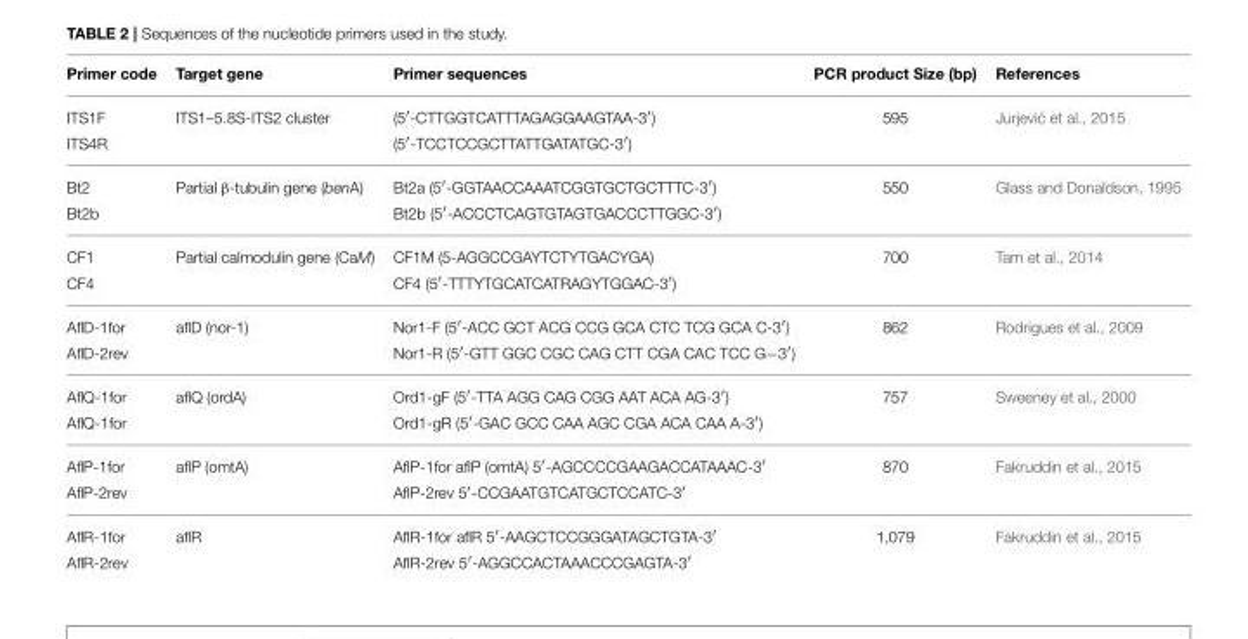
<table><thead><tr><td>Primer code</td><td>Target gene</td><td>Primer sequences</td><td>PCR product Size (bp)</td><td>References</td></tr></thead><tbody><tr><td>ITS1F</td><td>ITS1–5.8S-ITS2 cluster</td><td>(5′-CTTGGTCATTTAGAGGAAGTAA-3′)</td><td>595</td><td>Jurjevi ´c et al., 2015</td></tr><tr><td>ITS4R</td><td></td><td>(5′-TCCTCCGCTTATTGATATGC-3′)</td><td></td><td></td></tr><tr><td>Bt2</td><td>Partial β-tubulin gene (benA)</td><td>Bt2a (5′-GGTAACCAAATCGGTGCTGCTTTC-3′)</td><td>550</td><td>Glass and Donaldson, 1995</td></tr><tr><td>Bt2b</td><td></td><td>Bt2b (5′-ACCCTCAGTGTAGTGACCCTTGGC-3′)</td><td></td><td></td></tr><tr><td>CF1</td><td>Partial calmodulin gene (CaM)</td><td>CF1M (5-AGGCCGAYTCTYTGACYGA)</td><td>700</td><td>Tam et al., 2014</td></tr><tr><td>CF4</td><td></td><td>CF4 (5′-TTTYTGCATCATRAGYTGGAC-3′)</td><td></td><td></td></tr><tr><td>AflD-1for</td><td>aflD (nor-1)</td><td>Nor1-F (5′-ACC GCT ACG CCG GCA CTC TCG GCA C-3′)</td><td>862</td><td>Rodrigues et al., 2009</td></tr><tr><td>AflD-2rev</td><td></td><td>Nor1-R (5′-GTT GGC CGC CAG CTT CGA CAC TCC G−3′)</td><td></td><td></td></tr><tr><td>AflQ-1for</td><td>aflQ (ordA)</td><td>Ord1-gF (5′-TTA AGG CAG CGG AAT ACA AG-3′)</td><td>757</td><td>Sweeney et al., 2000</td></tr><tr><td>AflQ-1for</td><td></td><td>Ord1-gR (5′-GAC GCC CAA AGC CGA ACA CAA A-3′)</td><td></td><td></td></tr><tr><td>AflP-1for</td><td>aflP (omtA)</td><td>AflP-1for aflP (omtA) 5′-AGCCCCGAAGACCATAAAC-3′</td><td>870</td><td>Fakruddin et al., 2015</td></tr><tr><td>AflP-2rev</td><td></td><td>AflP-2rev 5′-CCGAATGTCATGCTCCATC-3′</td><td></td><td></td></tr><tr><td>AflR-1for</td><td>aflR</td><td>AflR-1for aflR 5′-AAGCTCCGGGATAGCTGTA-3′</td><td>1,079</td><td>Fakruddin et al., 2015</td></tr><tr><td>AflR-2rev</td><td></td><td>AflR-2rev 5′-AGGCCACTAAACCCGAGTA-3′</td><td></td><td></td></tr></tbody></table>